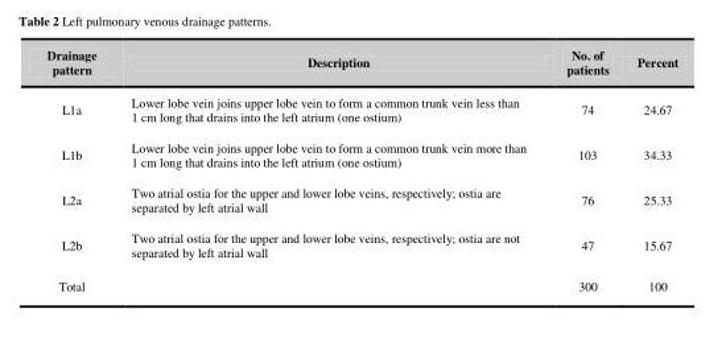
<table><thead><tr><td>Drainage pattern</td><td>Description</td><td>No. of patients</td><td>Percent</td></tr></thead><tbody><tr><td>L1a</td><td>Lower lobe vein joins upper lobe vein to form a common trunk vein less than 1 cm long that drains into the left atrium (one ostium)</td><td>74</td><td>24.67</td></tr><tr><td>L1b</td><td>Lower lobe vein joins upper lobe vein to form a common trunk vein more than 1 cm long that drains into the left atrium (one ostium)</td><td>103</td><td>34.33</td></tr><tr><td>L2a</td><td>Two atrial ostia for the upper and lower lobe veins, respectively; ostia are separated by left atrial wall</td><td>76</td><td>25.33</td></tr><tr><td>L2b</td><td>Two atrial ostia for the upper and lower lobe veins, respectively; ostia are not separated by left atrial wall</td><td>47</td><td>15.67</td></tr><tr><td>Total</td><td></td><td>300</td><td>100</td></tr></tbody></table>